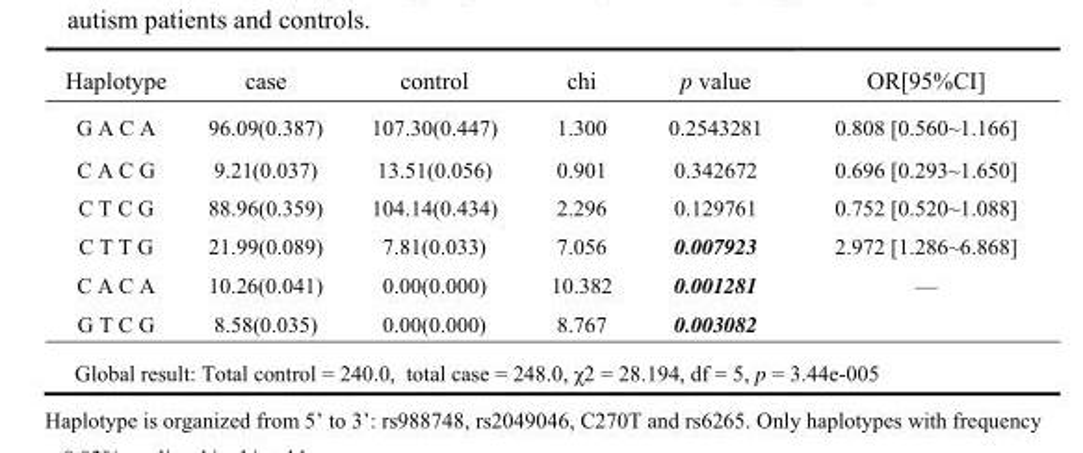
<table><thead><tr><td>Haplotype</td><td>case</td><td>control</td><td>chi</td><td>p value</td><td>OR[95%CI]</td></tr></thead><tbody><tr><td>G A C A</td><td>96.09(0.387)</td><td>107.30(0.447)</td><td>1.300</td><td>0.2543281</td><td>0.808 [0.560~1.166]</td></tr><tr><td>C A C G</td><td>9.21(0.037)</td><td>13.51(0.056)</td><td>0.901</td><td>0.342672</td><td>0.696 [0.293~1.650]</td></tr><tr><td>C T C G</td><td>88.96(0.359)</td><td>104.14(0.434)</td><td>2.296</td><td>0.129761</td><td>0.752 [0.520~1.088]</td></tr><tr><td>C T T G</td><td>21.99(0.089)</td><td>7.81(0.033)</td><td>7.056</td><td>0.007923</td><td>2.972 [1.286~6.868]</td></tr><tr><td>C A C A</td><td>10.26(0.041)</td><td>0.00(0.000)</td><td>10.382</td><td>0.001281</td><td>—</td></tr><tr><td>G T C G</td><td>8.58(0.035)</td><td>0.00(0.000)</td><td>8.767</td><td>0.003082</td><td></td></tr><tr><td colspan="6">Global result: Total control = 240.0, total case = 248.0, χ2 = 28.194, df = 5, p = 3.44e-005</td></tr></tbody></table>